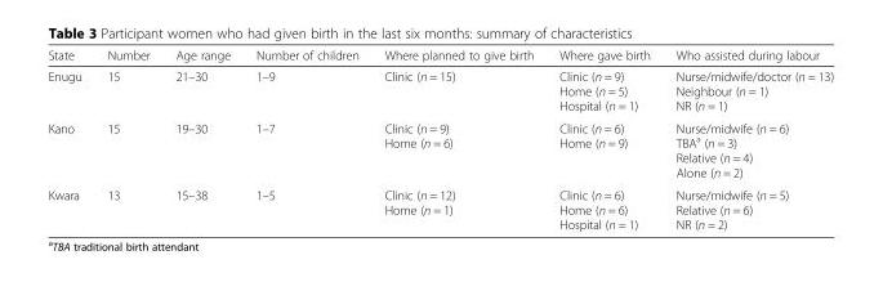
<table><thead><tr><td>State</td><td>Number</td><td>Age range</td><td>Number of children</td><td>Where planned to give birth</td><td>Where gave birth</td><td>Who assisted during labour</td></tr></thead><tbody><tr><td>Enugu</td><td>15</td><td>21–30</td><td>1–9</td><td>Clinic (n = 15)</td><td>Clinic (n = 9) Home (n = 5) Hospital (n = 1)</td><td>Nurse/midwife/doctor (n = 13) Neighbour (n = 1) NR (n = 1)</td></tr><tr><td>Kano</td><td>15</td><td>19–30</td><td>1–7</td><td>Clinic (n = 9) Home (n = 6)</td><td>Clinic (n = 6) Home (n = 9)</td><td>Nurse/midwife (n = 6) TBA<sup>a</sup> (n = 3) Relative (n = 4) Alone (n = 2)</td></tr><tr><td>Kwara</td><td>13</td><td>15–38</td><td>1–5</td><td>Clinic (n = 12) Home (n = 1)</td><td>Clinic (n = 6) Home (n = 6) Hospital (n = 1)</td><td>Nurse/midwife (n = 5) Relative (n = 6) NR (n = 2)</td></tr></tbody></table>